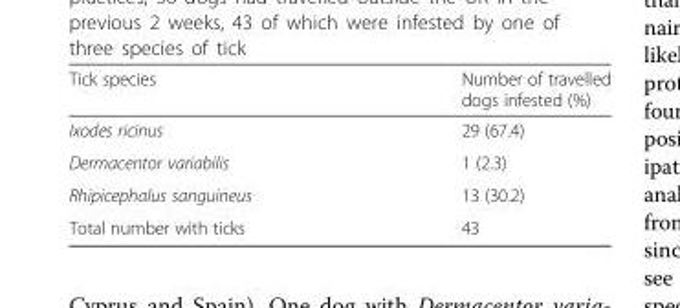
<table><thead><tr><td>Tick species</td><td>Number of travelled dogs infested (%)</td></tr></thead><tbody><tr><td>Ixodes ricinus</td><td>29 (67.4)</td></tr><tr><td>Dermacentor variabilis</td><td>1 (2.3)</td></tr><tr><td>Rhipicephalus sanguineus</td><td>13 (30.2)</td></tr><tr><td>Total number with ticks</td><td>43</td></tr></tbody></table>